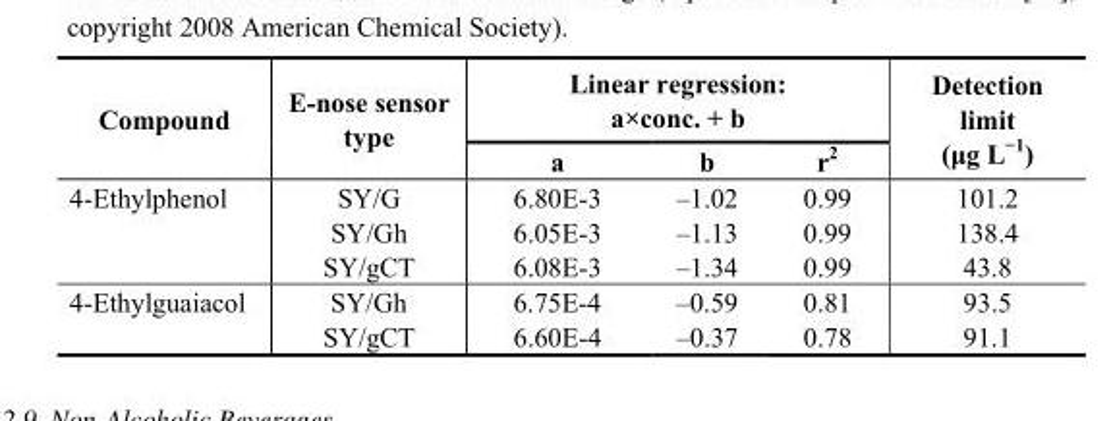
<table><thead><tr><td rowspan="2">Compound</td><td rowspan="2">E-nose sensor type</td><td colspan="3">Linear regression: a×conc. + b</td><td rowspan="2">Detection limit (μg L<sup>−1</sup>)</td></tr><tr><td>a</td><td>b</td><td>r<sup>2</sup></td></tr></thead><tbody><tr><td rowspan="3">4-Ethylphenol</td><td>SY/G</td><td>6.80E-3</td><td>–1.02</td><td>0.99</td><td>101.2</td></tr><tr><td>SY/Gh</td><td>6.05E-3</td><td>–1.13</td><td>0.99</td><td>138.4</td></tr><tr><td>SY/gCT</td><td>6.08E-3</td><td>–1.34</td><td>0.99</td><td>43.8</td></tr><tr><td rowspan="2">4-Ethylguaiacol</td><td>SY/Gh</td><td>6.75E-4</td><td>–0.59</td><td>0.81</td><td>93.5</td></tr><tr><td>SY/gCT</td><td>6.60E-4</td><td>–0.37</td><td>0.78</td><td>91.1</td></tr></tbody></table>